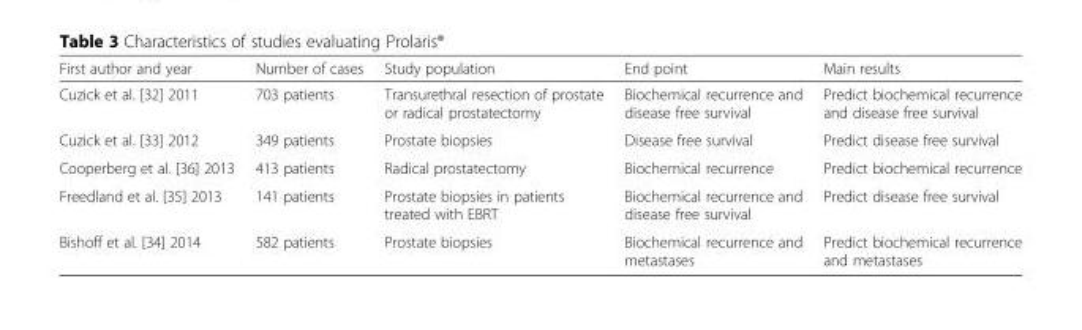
<table><thead><tr><td>First author and year</td><td>Number of cases</td><td>Study population</td><td>End point</td><td>Main results</td></tr></thead><tbody><tr><td>Cuzick et al. [32] 2011</td><td>703 patients</td><td>Transurethral resection of prostate or radical prostatectomy</td><td>Biochemical recurrence and disease free survival</td><td>Predict biochemical recurrence and disease free survival</td></tr><tr><td>Cuzick et al. [33] 2012</td><td>349 patients</td><td>Prostate biopsies</td><td>Disease free survival</td><td>Predict disease free survival</td></tr><tr><td>Cooperberg et al. [36] 2013</td><td>413 patients</td><td>Radical prostatectomy</td><td>Biochemical recurrence</td><td>Predict biochemical recurrence</td></tr><tr><td>Freedland et al. [35] 2013</td><td>141 patients</td><td>Prostate biopsies in patients treated with EBRT</td><td>Biochemical recurrence and disease free survival</td><td>Predict disease free survival</td></tr><tr><td>Bishoff et al. [34] 2014</td><td>582 patients</td><td>Prostate biopsies</td><td>Biochemical recurrence and metastases</td><td>Predict biochemical recurrence and metastases</td></tr></tbody></table>